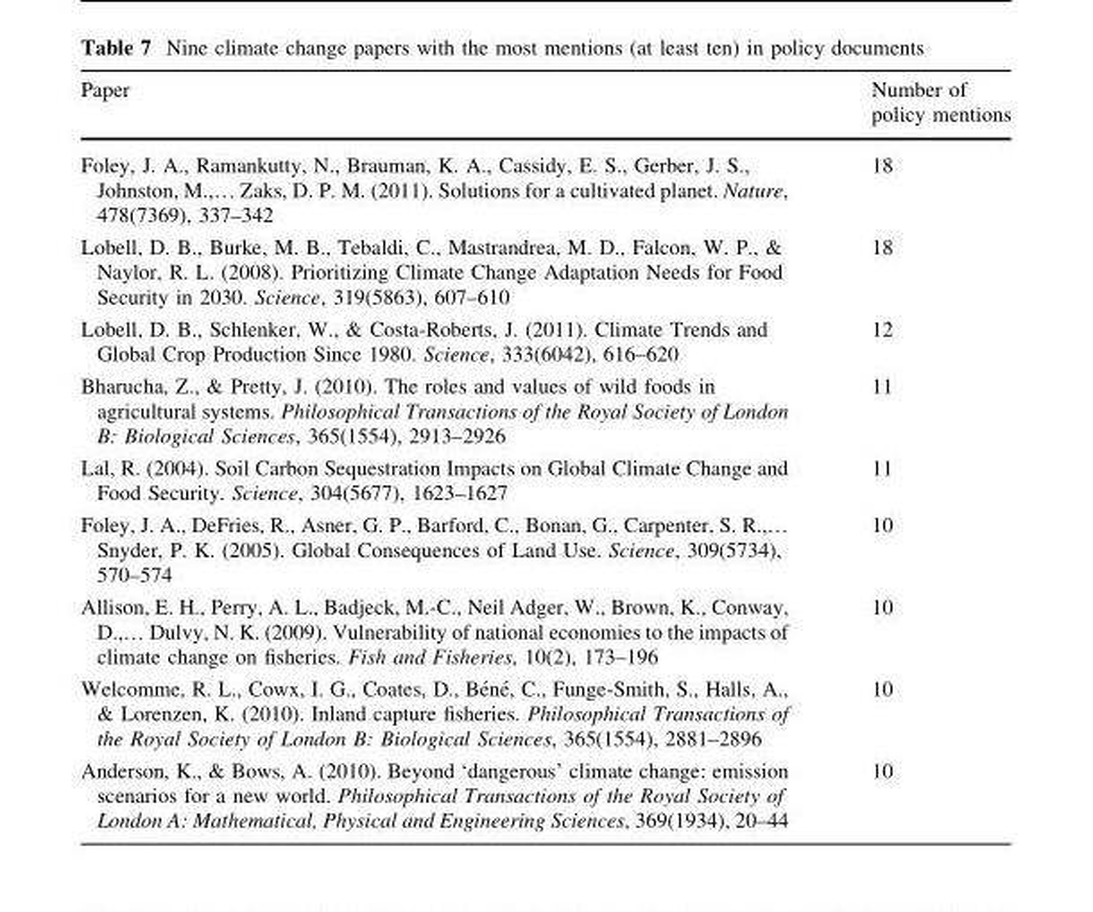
<table><thead><tr><td>Paper</td><td>Number of policy mentions</td></tr></thead><tbody><tr><td>Foley, J. A., Ramankutty, N., Brauman, K. A., Cassidy, E. S., Gerber, J. S., Johnston, M.,… Zaks, D. P. M. (2011). Solutions for a cultivated planet. Nature, 478(7369), 337–342</td><td>18</td></tr><tr><td>Lobell, D. B., Burke, M. B., Tebaldi, C., Mastrandrea, M. D., Falcon, W. P., &amp; Naylor, R. L. (2008). Prioritizing Climate Change Adaptation Needs for Food Security in 2030. Science, 319(5863), 607–610</td><td>18</td></tr><tr><td>Lobell, D. B., Schlenker, W., &amp; Costa-Roberts, J. (2011). Climate Trends and Global Crop Production Since 1980. Science, 333(6042), 616–620</td><td>12</td></tr><tr><td>Bharucha, Z., &amp; Pretty, J. (2010). The roles and values of wild foods in agricultural systems. Philosophical Transactions of the Royal Society of London B: Biological Sciences, 365(1554), 2913–2926</td><td>11</td></tr><tr><td>Lal, R. (2004). Soil Carbon Sequestration Impacts on Global Climate Change and Food Security. Science, 304(5677), 1623–1627</td><td>11</td></tr><tr><td>Foley, J. A., DeFries, R., Asner, G. P., Barford, C., Bonan, G., Carpenter, S. R.,… Snyder, P. K. (2005). Global Consequences of Land Use. Science, 309(5734), 570–574</td><td>10</td></tr><tr><td>Allison, E. H., Perry, A. L., Badjeck, M.-C., Neil Adger, W., Brown, K., Conway, D.,… Dulvy, N. K. (2009). Vulnerability of national economies to the impacts of climate change on fisheries. Fish and Fisheries, 10(2), 173–196</td><td>10</td></tr><tr><td>Welcomme, R. L., Cowx, I. G., Coates, D., Be´ne´, C., Funge-Smith, S., Halls, A., &amp; Lorenzen, K. (2010). Inland capture fisheries. Philosophical Transactions of the Royal Society of London B: Biological Sciences, 365(1554), 2881–2896</td><td>10</td></tr><tr><td>Anderson, K., &amp; Bows, A. (2010). Beyond ‘dangerous’ climate change: emission scenarios for a new world. Philosophical Transactions of the Royal Society of London A: Mathematical, Physical and Engineering Sciences, 369(1934), 20–44</td><td>10</td></tr></tbody></table>